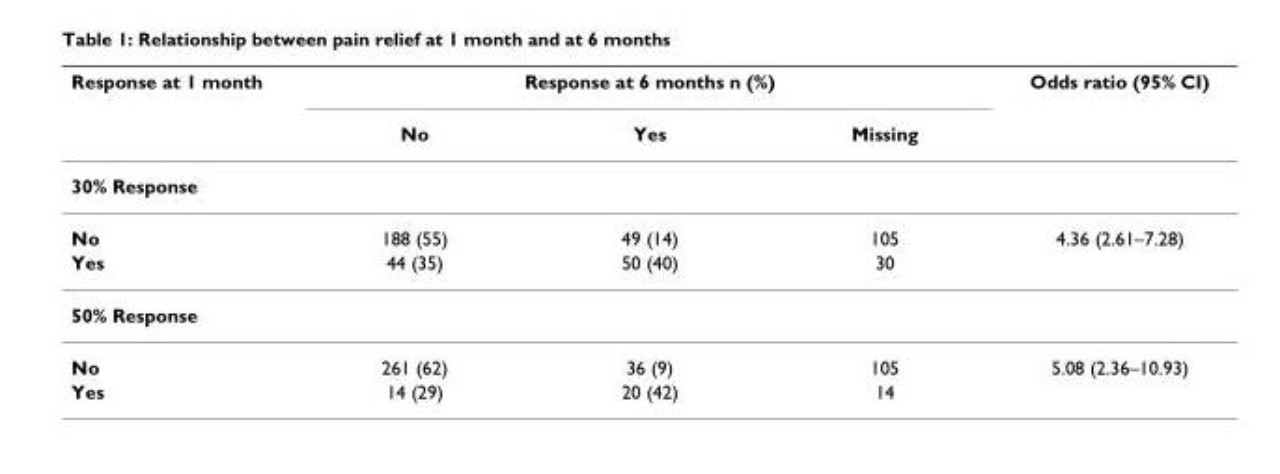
<table><thead><tr><td rowspan="2">Response at 1 month</td><td colspan="3">Response at 6 months n (%)</td><td rowspan="2">Odds ratio (95% CI)</td></tr><tr><td>No</td><td>Yes</td><td>Missing</td></tr></thead><tbody><tr><td colspan="5">30% Response</td></tr><tr><td>No</td><td>188 (55)</td><td>49 (14)</td><td>105</td><td>4.36 (2.61–7.28)</td></tr><tr><td>Yes</td><td>44 (35)</td><td>50 (40)</td><td>30</td><td></td></tr><tr><td colspan="5">50% Response</td></tr><tr><td>No</td><td>261 (62)</td><td>36 (9)</td><td>105</td><td>5.08 (2.36–10.93)</td></tr><tr><td>Yes</td><td>14 (29)</td><td>20 (42)</td><td>14</td><td></td></tr></tbody></table>